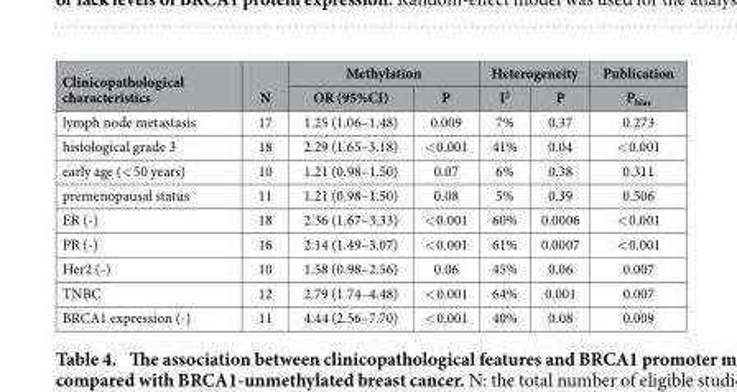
<table><thead><tr><td rowspan="2">Clinicopathological characteristics</td><td rowspan="2">N</td><td colspan="2">Methylation</td><td colspan="2">Heterogeneity</td><td rowspan="2">Publication P<sub>bias</sub></td></tr><tr><td>OR (95%CI)</td><td>P</td><td>I<sup>2</sup></td><td>P</td></tr></thead><tbody><tr><td>lymph node metastasis</td><td>17</td><td>1.25 (1.06–1.48)</td><td>0.009</td><td>7%</td><td>0.37</td><td>0.273</td></tr><tr><td>histological grade 3</td><td>18</td><td>2.29 (1.65–3.18)</td><td>&lt; 0.001</td><td>41%</td><td>0.04</td><td>&lt; 0.001</td></tr><tr><td>early age (&lt; 50 years)</td><td>10</td><td>1.21 (0.98–1.50)</td><td>0.07</td><td>6%</td><td>0.38</td><td>0.311</td></tr><tr><td>premenopausal status</td><td>11</td><td>1.21 (0.98–1.50)</td><td>0.08</td><td>5%</td><td>0.39</td><td>0.506</td></tr><tr><td>ER (-)</td><td>18</td><td>2.36 (1.67–3.33)</td><td>&lt; 0.001</td><td>60%</td><td>0.0006</td><td>&lt; 0.001</td></tr><tr><td>PR (-)</td><td>16</td><td>2.14 (1.49–3.07)</td><td>&lt; 0.001</td><td>61%</td><td>0.0007</td><td>&lt; 0.001</td></tr><tr><td>Her2 (-)</td><td>10</td><td>1.58 (0.98–2.56)</td><td>0.06</td><td>45%</td><td>0.06</td><td>0.007</td></tr><tr><td>TNBC</td><td>12</td><td>2.79 (1.74–4.48)</td><td>&lt; 0.001</td><td>64%</td><td>0.001</td><td>0.007</td></tr><tr><td>BRCA1 expression (-)</td><td>11</td><td>4.44 (2.56–7.70)</td><td>&lt; 0.001</td><td>40%</td><td>0.08</td><td>0.009</td></tr></tbody></table>